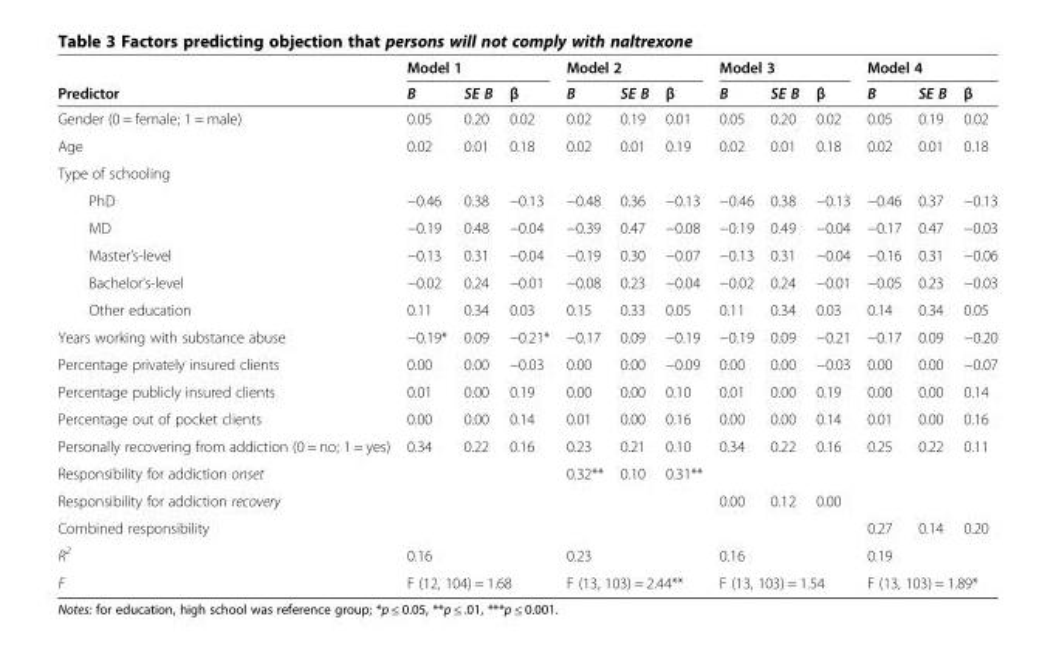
<table><thead><tr><td rowspan="2">Predictor</td><td colspan="3">Model 1</td><td colspan="3">Model 2</td><td colspan="3">Model 3</td><td colspan="3">Model 4</td></tr><tr><td>B</td><td>SE B</td><td>β</td><td>B</td><td>SE B</td><td>β</td><td>B</td><td>SE B</td><td>β</td><td>B</td><td>SE B</td><td>β</td></tr></thead><tbody><tr><td>Gender (0 = female; 1 = male)</td><td>0.05</td><td>0.20</td><td>0.02</td><td>0.02</td><td>0.19</td><td>0.01</td><td>0.05</td><td>0.20</td><td>0.02</td><td>0.05</td><td>0.19</td><td>0.02</td></tr><tr><td>Age</td><td>0.02</td><td>0.01</td><td>0.18</td><td>0.02</td><td>0.01</td><td>0.19</td><td>0.02</td><td>0.01</td><td>0.18</td><td>0.02</td><td>0.01</td><td>0.18</td></tr><tr><td colspan="13">Type of schooling</td></tr><tr><td>PhD</td><td>−0.46</td><td>0.38</td><td>−0.13</td><td>−0.48</td><td>0.36</td><td>−0.13</td><td>−0.46</td><td>0.38</td><td>−0.13</td><td>−0.46</td><td>0.37</td><td>−0.13</td></tr><tr><td>MD</td><td>−0.19</td><td>0.48</td><td>−0.04</td><td>−0.39</td><td>0.47</td><td>−0.08</td><td>−0.19</td><td>0.49</td><td>−0.04</td><td>−0.17</td><td>0.47</td><td>−0.03</td></tr><tr><td>Master’s-level</td><td>−0.13</td><td>0.31</td><td>−0.04</td><td>−0.19</td><td>0.30</td><td>−0.07</td><td>−0.13</td><td>0.31</td><td>−0.04</td><td>−0.16</td><td>0.31</td><td>−0.06</td></tr><tr><td>Bachelor’s-level</td><td>−0.02</td><td>0.24</td><td>−0.01</td><td>−0.08</td><td>0.23</td><td>−0.04</td><td>−0.02</td><td>0.24</td><td>−0.01</td><td>−0.05</td><td>0.23</td><td>−0.03</td></tr><tr><td>Other education</td><td>0.11</td><td>0.34</td><td>0.03</td><td>0.15</td><td>0.33</td><td>0.05</td><td>0.11</td><td>0.34</td><td>0.03</td><td>0.14</td><td>0.34</td><td>0.05</td></tr><tr><td>Years working with substance abuse</td><td>−0.19*</td><td>0.09</td><td>−0.21*</td><td>−0.17</td><td>0.09</td><td>−0.19</td><td>−0.19</td><td>0.09</td><td>−0.21</td><td>−0.17</td><td>0.09</td><td>−0.20</td></tr><tr><td>Percentage privately insured clients</td><td>0.00</td><td>0.00</td><td>−0.03</td><td>0.00</td><td>0.00</td><td>−0.09</td><td>0.00</td><td>0.00</td><td>−0.03</td><td>0.00</td><td>0.00</td><td>−0.07</td></tr><tr><td>Percentage publicly insured clients</td><td>0.01</td><td>0.00</td><td>0.19</td><td>0.00</td><td>0.00</td><td>0.10</td><td>0.01</td><td>0.00</td><td>0.19</td><td>0.00</td><td>0.00</td><td>0.14</td></tr><tr><td>Percentage out of pocket clients</td><td>0.00</td><td>0.00</td><td>0.14</td><td>0.01</td><td>0.00</td><td>0.16</td><td>0.00</td><td>0.00</td><td>0.14</td><td>0.01</td><td>0.00</td><td>0.16</td></tr><tr><td>Personally recovering from addiction (0 = no; 1 = yes)</td><td>0.34</td><td>0.22</td><td>0.16</td><td>0.23</td><td>0.21</td><td>0.10</td><td>0.34</td><td>0.22</td><td>0.16</td><td>0.25</td><td>0.22</td><td>0.11</td></tr><tr><td>Responsibility for addiction onset</td><td></td><td></td><td></td><td>0.32**</td><td>0.10</td><td>0.31**</td><td></td><td></td><td></td><td></td><td></td><td></td></tr><tr><td>Responsibility for addiction recovery</td><td></td><td></td><td></td><td></td><td></td><td></td><td>0.00</td><td>0.12</td><td>0.00</td><td></td><td></td><td></td></tr><tr><td>Combined responsibility</td><td></td><td></td><td></td><td></td><td colspan="3"></td><td colspan="2"></td><td>0.27</td><td>0.14</td><td>0.20</td></tr><tr><td>R<sup>2</sup></td><td colspan="3">0.16</td><td colspan="3">0.23</td><td colspan="3">0.16</td><td colspan="3">0.19</td></tr><tr><td>F</td><td colspan="3">F (12, 104) = 1.68</td><td colspan="3">F (13, 103) = 2.44**</td><td colspan="3">F (13, 103) = 1.54</td><td colspan="3">F (13, 103) = 1.89*</td></tr></tbody></table>